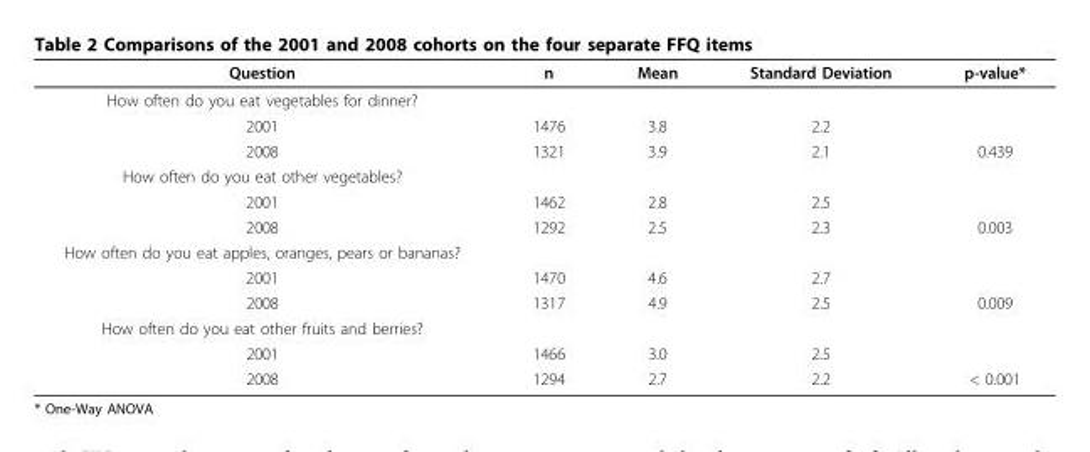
<table><thead><tr><td>Question</td><td>n</td><td>Mean</td><td>Standard Deviation</td><td>p-value*</td></tr></thead><tbody><tr><td colspan="5">How often do you eat vegetables for dinner?</td></tr><tr><td>2001</td><td>1476</td><td>3.8</td><td>2.2</td><td></td></tr><tr><td>2008</td><td>1321</td><td>3.9</td><td>2.1</td><td>0.439</td></tr><tr><td colspan="5">How often do you eat other vegetables?</td></tr><tr><td>2001</td><td>1462</td><td>2.8</td><td>2.5</td><td></td></tr><tr><td>2008</td><td>1292</td><td>2.5</td><td>2.3</td><td>0.003</td></tr><tr><td colspan="5">How often do you eat apples, oranges, pears or bananas?</td></tr><tr><td>2001</td><td>1470</td><td>4.6</td><td>2.7</td><td></td></tr><tr><td>2008</td><td>1317</td><td>4.9</td><td>2.5</td><td>0.009</td></tr><tr><td colspan="5">How often do you eat other fruits and berries?</td></tr><tr><td>2001</td><td>1466</td><td>3.0</td><td>2.5</td><td></td></tr><tr><td>2008</td><td>1294</td><td>2.7</td><td>2.2</td><td>&lt; 0.001</td></tr></tbody></table>